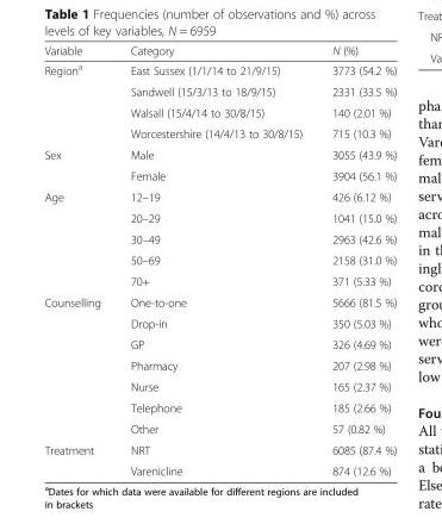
<table><thead><tr><td>Variable</td><td>Category</td><td>N (%)</td></tr></thead><tbody><tr><td rowspan="4">Region<sup>a</sup></td><td>East Sussex (1/1/14 to 21/9/15)</td><td>3773 (54.2 %)</td></tr><tr><td>Sandwell (15/3/13 to 18/9/15)</td><td>2331 (33.5 %)</td></tr><tr><td>Walsall (15/4/14 to 30/8/15)</td><td>140 (2.01 %)</td></tr><tr><td>Worcestershire (14/4/13 to 30/8/15)</td><td>715 (10.3 %)</td></tr><tr><td rowspan="2">Sex</td><td>Male</td><td>3055 (43.9 %)</td></tr><tr><td>Female</td><td>3904 (56.1 %)</td></tr><tr><td rowspan="5">Age</td><td>12–19</td><td>426 (6.12 %)</td></tr><tr><td>20–29</td><td>1041 (15.0 %)</td></tr><tr><td>30–49</td><td>2963 (42.6 %)</td></tr><tr><td>50–69</td><td>2158 (31.0 %)</td></tr><tr><td>70+</td><td>371 (5.33 %)</td></tr><tr><td rowspan="7">Counselling</td><td>One-to-one</td><td>5666 (81.5 %)</td></tr><tr><td>Drop-in</td><td>350 (5.03 %)</td></tr><tr><td>GP</td><td>326 (4.69 %)</td></tr><tr><td>Pharmacy</td><td>207 (2.98 %)</td></tr><tr><td>Nurse</td><td>165 (2.37 %)</td></tr><tr><td>Telephone</td><td>185 (2.66 %)</td></tr><tr><td>Other</td><td>57 (0.82 %)</td></tr><tr><td rowspan="2">Treatment</td><td>NRT</td><td>6085 (87.4 %)</td></tr><tr><td>Varenicline</td><td>874 (12.6 %)</td></tr></tbody></table>